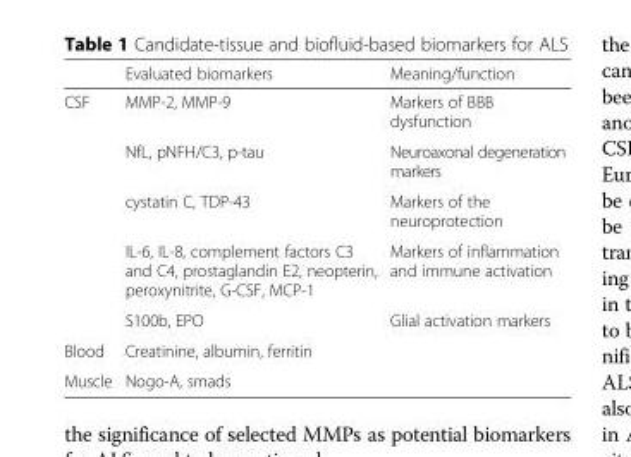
<table><thead><tr><td></td><td>Evaluated biomarkers</td><td>Meaning/function</td></tr></thead><tbody><tr><td rowspan="5">CSF</td><td>MMP-2, MMP-9</td><td>Markers of BBB dysfunction</td></tr><tr><td>NfL, pNFH/C3, p-tau</td><td>Neuroaxonal degeneration markers</td></tr><tr><td>cystatin C, TDP-43</td><td>Markers of the neuroprotection</td></tr><tr><td>IL-6, IL-8, complement factors C3 and C4, prostaglandin E2, neopterin, peroxynitrite, G-CSF, MCP-1</td><td>Markers of inflammation and immune activation</td></tr><tr><td>S100b, EPO</td><td>Glial activation markers</td></tr><tr><td>Blood</td><td>Creatinine, albumin, ferritin</td><td></td></tr><tr><td>Muscle</td><td>Nogo-A, smads</td><td></td></tr></tbody></table>